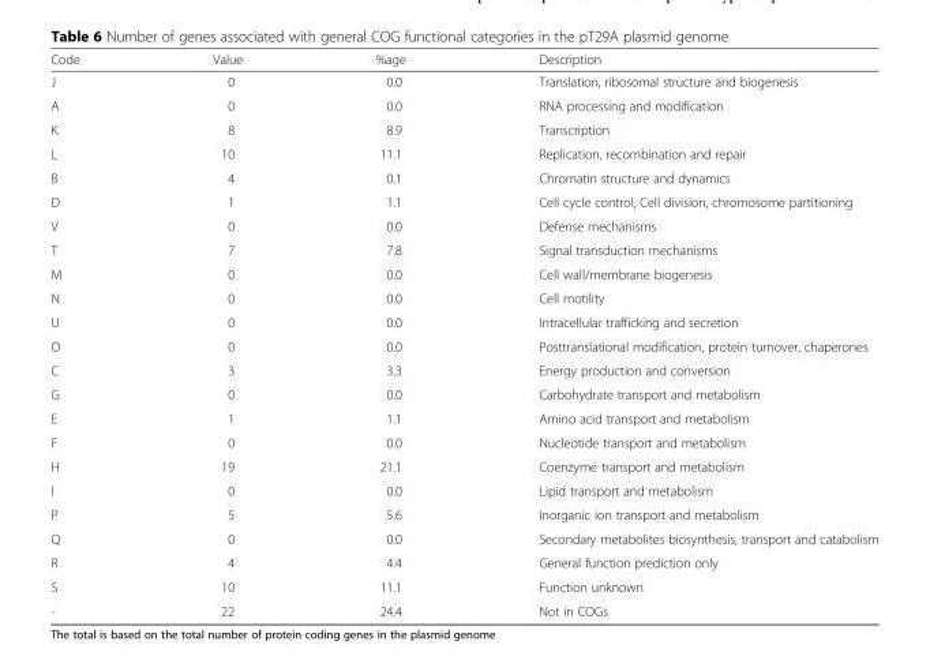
<table><thead><tr><td>Code</td><td>Value</td><td>%age</td><td>Description</td></tr></thead><tbody><tr><td>J</td><td>0</td><td>0.0</td><td>Translation, ribosomal structure and biogenesis</td></tr><tr><td>A</td><td>0</td><td>0.0</td><td>RNA processing and modification</td></tr><tr><td>K</td><td>8</td><td>8.9</td><td>Transcription</td></tr><tr><td>L</td><td>10</td><td>11.1</td><td>Replication, recombination and repair</td></tr><tr><td>B</td><td>4</td><td>0.1</td><td>Chromatin structure and dynamics</td></tr><tr><td>D</td><td>1</td><td>1.1</td><td>Cell cycle control, Cell division, chromosome partitioning</td></tr><tr><td>V</td><td>0</td><td>0.0</td><td>Defense mechanisms</td></tr><tr><td>T</td><td>7</td><td>7.8</td><td>Signal transduction mechanisms</td></tr><tr><td>M</td><td>0</td><td>0.0</td><td>Cell wall/membrane biogenesis</td></tr><tr><td>N</td><td>0</td><td>0.0</td><td>Cell motility</td></tr><tr><td>U</td><td>0</td><td>0.0</td><td>Intracellular trafficking and secretion</td></tr><tr><td>O</td><td>0</td><td>0.0</td><td>Posttranslational modification, protein turnover, chaperones</td></tr><tr><td>C</td><td>3</td><td>3.3</td><td>Energy production and conversion</td></tr><tr><td>G</td><td>0</td><td>0.0</td><td>Carbohydrate transport and metabolism</td></tr><tr><td>E</td><td>1</td><td>1.1</td><td>Amino acid transport and metabolism</td></tr><tr><td>F</td><td>0</td><td>0.0</td><td>Nucleotide transport and metabolism</td></tr><tr><td>H</td><td>19</td><td>21.1</td><td>Coenzyme transport and metabolism</td></tr><tr><td>I</td><td>0</td><td>0.0</td><td>Lipid transport and metabolism</td></tr><tr><td>P</td><td>5</td><td>5.6</td><td>Inorganic ion transport and metabolism</td></tr><tr><td>Q</td><td>0</td><td>0.0</td><td>Secondary metabolites biosynthesis, transport and catabolism</td></tr><tr><td>R</td><td>4</td><td>4.4</td><td>General function prediction only</td></tr><tr><td>S</td><td>10</td><td>11.1</td><td>Function unknown</td></tr><tr><td>-</td><td>22</td><td>24.4</td><td>Not in COGs</td></tr></tbody></table>